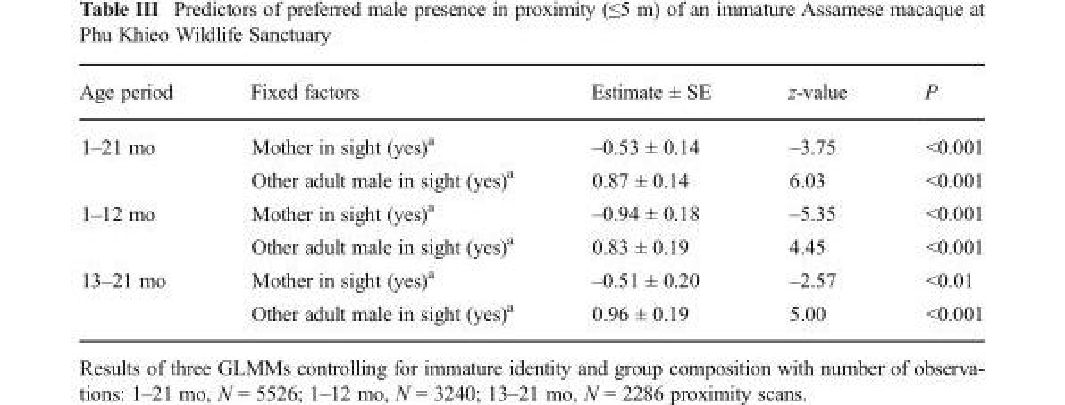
<table><thead><tr><td>Age period</td><td>Fixed factors</td><td>Estimate ± SE</td><td>z-value</td><td>P</td></tr></thead><tbody><tr><td rowspan="2">1–21 mo</td><td>Mother in sight (yes)<sup>a</sup></td><td>–0.53 ± 0.14</td><td>–3.75</td><td>&lt;0.001</td></tr><tr><td>Other adult male in sight (yes)<sup>a</sup></td><td>0.87 ± 0.14</td><td>6.03</td><td>&lt;0.001</td></tr><tr><td rowspan="2">1–12 mo</td><td>Mother in sight (yes)<sup>a</sup></td><td>–0.94 ± 0.18</td><td>–5.35</td><td>&lt;0.001</td></tr><tr><td>Other adult male in sight (yes)<sup>a</sup></td><td>0.83 ± 0.19</td><td>4.45</td><td>&lt;0.001</td></tr><tr><td rowspan="2">13–21 mo</td><td>Mother in sight (yes)<sup>a</sup></td><td>–0.51 ± 0.20</td><td>–2.57</td><td>&lt;0.01</td></tr><tr><td>Other adult male in sight (yes)<sup>a</sup></td><td>0.96 ± 0.19</td><td>5.00</td><td>&lt;0.001</td></tr></tbody></table>